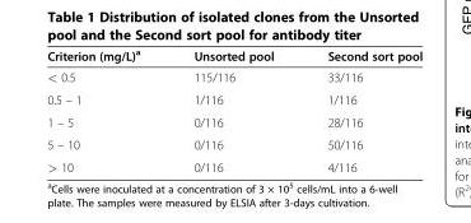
<table><thead><tr><td>Criterion (mg/L)<sup>a</sup></td><td>Unsorted pool</td><td>Second sort pool</td></tr></thead><tbody><tr><td>&lt; 0.5</td><td>115/116</td><td>33/116</td></tr><tr><td>0.5 – 1</td><td>1/116</td><td>1/116</td></tr><tr><td>1 – 5</td><td>0/116</td><td>28/116</td></tr><tr><td>5 – 10</td><td>0/116</td><td>50/116</td></tr><tr><td>&gt; 10</td><td>0/116</td><td>4/116</td></tr></tbody></table>